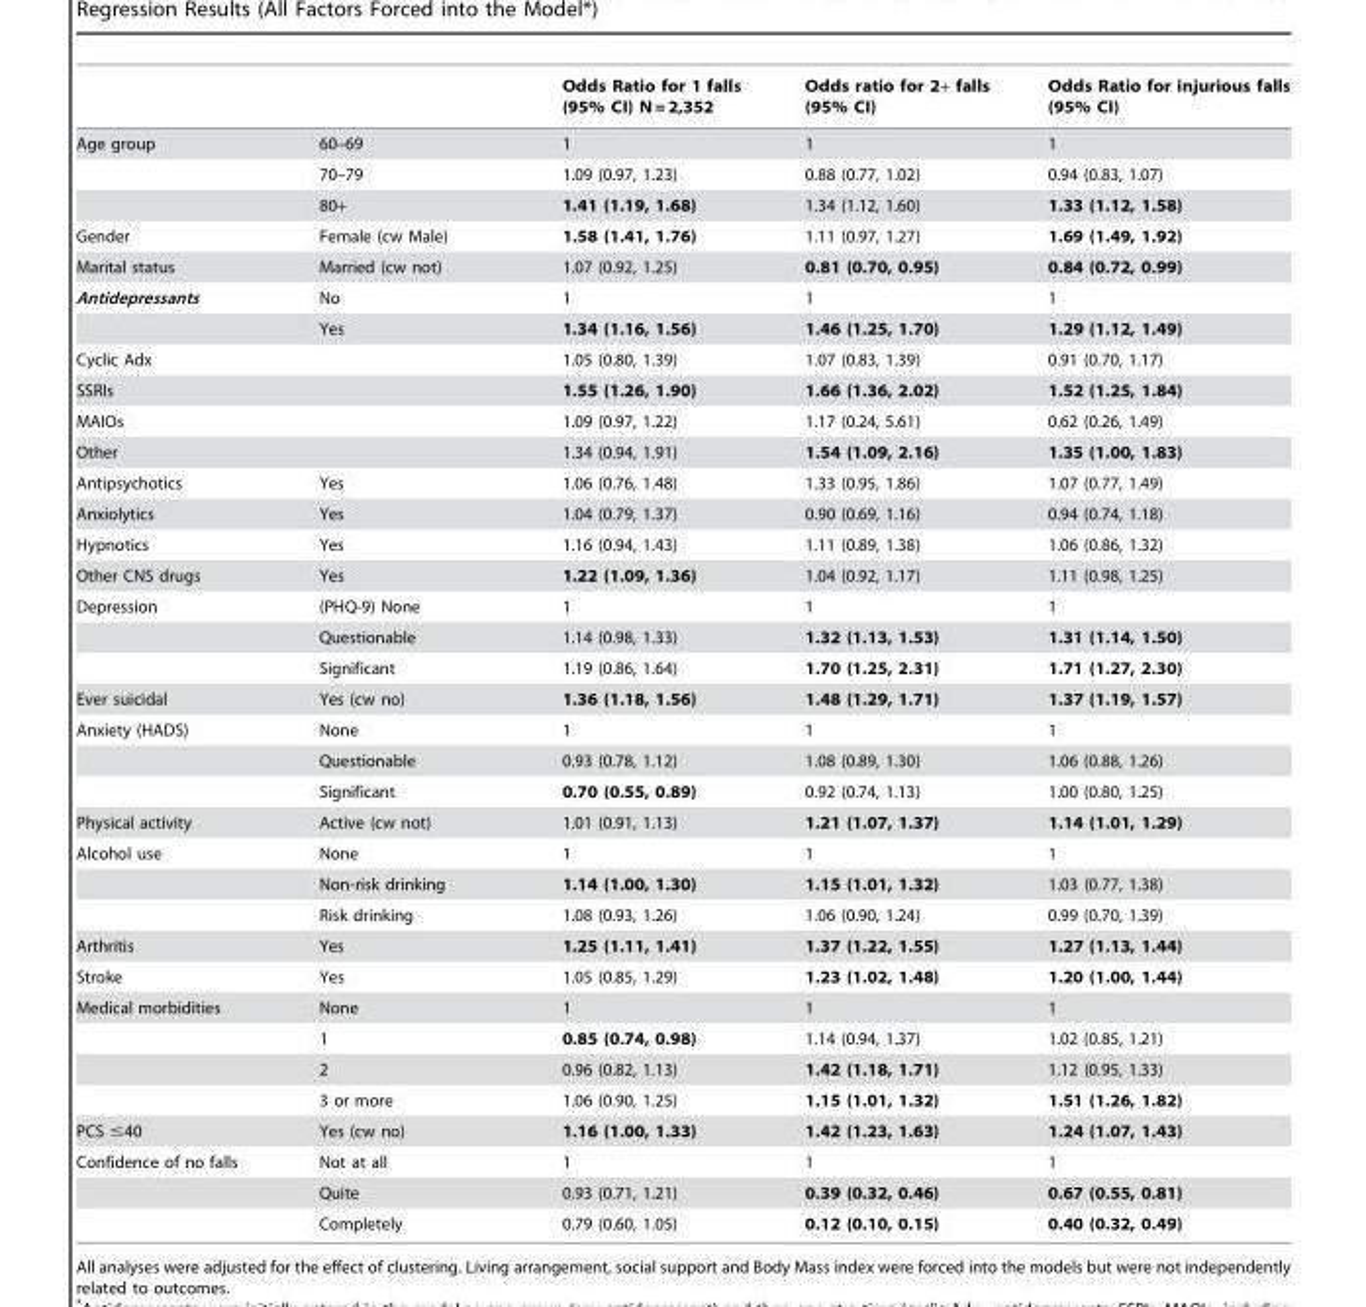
<table><thead><tr><td></td><td></td><td>Odds Ratio for 1 falls (95% CI) N = 2,352</td><td>Odds ratio for 2+ falls (95% CI)</td><td>Odds Ratio for injurious falls (95% CI)</td></tr></thead><tbody><tr><td rowspan="3">Age group</td><td>60–69</td><td>1</td><td>1</td><td>1</td></tr><tr><td>70–79</td><td>1.09 (0.97, 1.23)</td><td>0.88 (0.77, 1.02)</td><td>0.94 (0.83, 1.07)</td></tr><tr><td>80+</td><td>1.41 (1.19, 1.68)</td><td>1.34 (1.12, 1.60)</td><td>1.33 (1.12, 1.58)</td></tr><tr><td>Gender</td><td>Female (cw Male)</td><td>1.58 (1.41, 1.76)</td><td>1.11 (0.97, 1.27)</td><td>1.69 (1.49, 1.92)</td></tr><tr><td>Marital status</td><td>Married (cw not)</td><td>1.07 (0.92, 1.25)</td><td>0.81 (0.70, 0.95)</td><td>0.84 (0.72, 0.99)</td></tr><tr><td rowspan="2">Antidepressants</td><td>No</td><td>1</td><td>1</td><td>1</td></tr><tr><td>Yes</td><td>1.34 (1.16, 1.56)</td><td>1.46 (1.25, 1.70)</td><td>1.29 (1.12, 1.49)</td></tr><tr><td>Cyclic Adx</td><td></td><td>1.05 (0.80, 1.39)</td><td>1.07 (0.83, 1.39)</td><td>0.91 (0.70, 1.17)</td></tr><tr><td>SSRIs</td><td></td><td>1.55 (1.26, 1.90)</td><td>1.66 (1.36, 2.02)</td><td>1.52 (1.25, 1.84)</td></tr><tr><td>MAIOs</td><td></td><td>1.09 (0.97, 1.22)</td><td>1.17 (0.24, 5.61)</td><td>0.62 (0.26, 1.49)</td></tr><tr><td>Other</td><td></td><td>1.34 (0.94, 1.91)</td><td>1.54 (1.09, 2.16)</td><td>1.35 (1.00, 1.83)</td></tr><tr><td>Antipsychotics</td><td>Yes</td><td>1.06 (0.76, 1.48)</td><td>1.33 (0.95, 1.86)</td><td>1.07 (0.77, 1.49)</td></tr><tr><td>Anxiolytics</td><td>Yes</td><td>1.04 (0.79, 1.37)</td><td>0.90 (0.69, 1.16)</td><td>0.94 (0.74, 1.18)</td></tr><tr><td>Hypnotics</td><td>Yes</td><td>1.16 (0.94, 1.43)</td><td>1.11 (0.89, 1.38)</td><td>1.06 (0.86, 1.32)</td></tr><tr><td>Other CNS drugs</td><td>Yes</td><td>1.22 (1.09, 1.36)</td><td>1.04 (0.92, 1.17)</td><td>1.11 (0.98, 1.25)</td></tr><tr><td rowspan="3">Depression</td><td>(PHQ-9) None</td><td>1</td><td>1</td><td>1</td></tr><tr><td>Questionable</td><td>1.14 (0.98, 1.33)</td><td>1.32 (1.13, 1.53)</td><td>1.31 (1.14, 1.50)</td></tr><tr><td>Significant</td><td>1.19 (0.86, 1.64)</td><td>1.70 (1.25, 2.31)</td><td>1.71 (1.27, 2.30)</td></tr><tr><td>Ever suicidal</td><td>Yes (cw no)</td><td>1.36 (1.18, 1.56)</td><td>1.48 (1.29, 1.71)</td><td>1.37 (1.19, 1.57)</td></tr><tr><td rowspan="3">Anxiety (HADS)</td><td>None</td><td>1</td><td>1</td><td>1</td></tr><tr><td>Questionable</td><td>0.93 (0.78, 1.12)</td><td>1.08 (0.89, 1.30)</td><td>1.06 (0.88, 1.26)</td></tr><tr><td>Significant</td><td>0.70 (0.55, 0.89)</td><td>0.92 (0.74, 1.13)</td><td>1.00 (0.80, 1.25)</td></tr><tr><td>Physical activity</td><td>Active (cw not)</td><td>1.01 (0.91, 1.13)</td><td>1.21 (1.07, 1.37)</td><td>1.14 (1.01, 1.29)</td></tr><tr><td rowspan="3">Alcohol use</td><td>None</td><td>1</td><td>1</td><td>1</td></tr><tr><td>Non-risk drinking</td><td>1.14 (1.00, 1.30)</td><td>1.15 (1.01, 1.32)</td><td>1.03 (0.77, 1.38)</td></tr><tr><td>Risk drinking</td><td>1.08 (0.93, 1.26)</td><td>1.06 (0.90, 1.24)</td><td>0.99 (0.70, 1.39)</td></tr><tr><td>Arthritis</td><td>Yes</td><td>1.25 (1.11, 1.41)</td><td>1.37 (1.22, 1.55)</td><td>1.27 (1.13, 1.44)</td></tr><tr><td>Stroke</td><td>Yes</td><td>1.05 (0.85, 1.29)</td><td>1.23 (1.02, 1.48)</td><td>1.20 (1.00, 1.44)</td></tr><tr><td rowspan="4">Medical morbidities</td><td>None</td><td>1</td><td>1</td><td>1</td></tr><tr><td>1</td><td>0.85 (0.74, 0.98)</td><td>1.14 (0.94, 1.37)</td><td>1.02 (0.85, 1.21)</td></tr><tr><td>2</td><td>0.96 (0.82, 1.13)</td><td>1.42 (1.18, 1.71)</td><td>1.12 (0.95, 1.33)</td></tr><tr><td>3 or more</td><td>1.06 (0.90, 1.25)</td><td>1.15 (1.01, 1.32)</td><td>1.51 (1.26, 1.82)</td></tr><tr><td>PCS ≤40</td><td>Yes (cw no)</td><td>1.16 (1.00, 1.33)</td><td>1.42 (1.23, 1.63)</td><td>1.24 (1.07, 1.43)</td></tr><tr><td rowspan="3">Confidence of no falls</td><td>Not at all</td><td>1</td><td>1</td><td>1</td></tr><tr><td>Quite</td><td>0.93 (0.71, 1.21)</td><td>0.39 (0.32, 0.46)</td><td>0.67 (0.55, 0.81)</td></tr><tr><td>Completely</td><td>0.79 (0.60, 1.05)</td><td>0.12 (0.10, 0.15)</td><td>0.40 (0.32, 0.49)</td></tr></tbody></table>